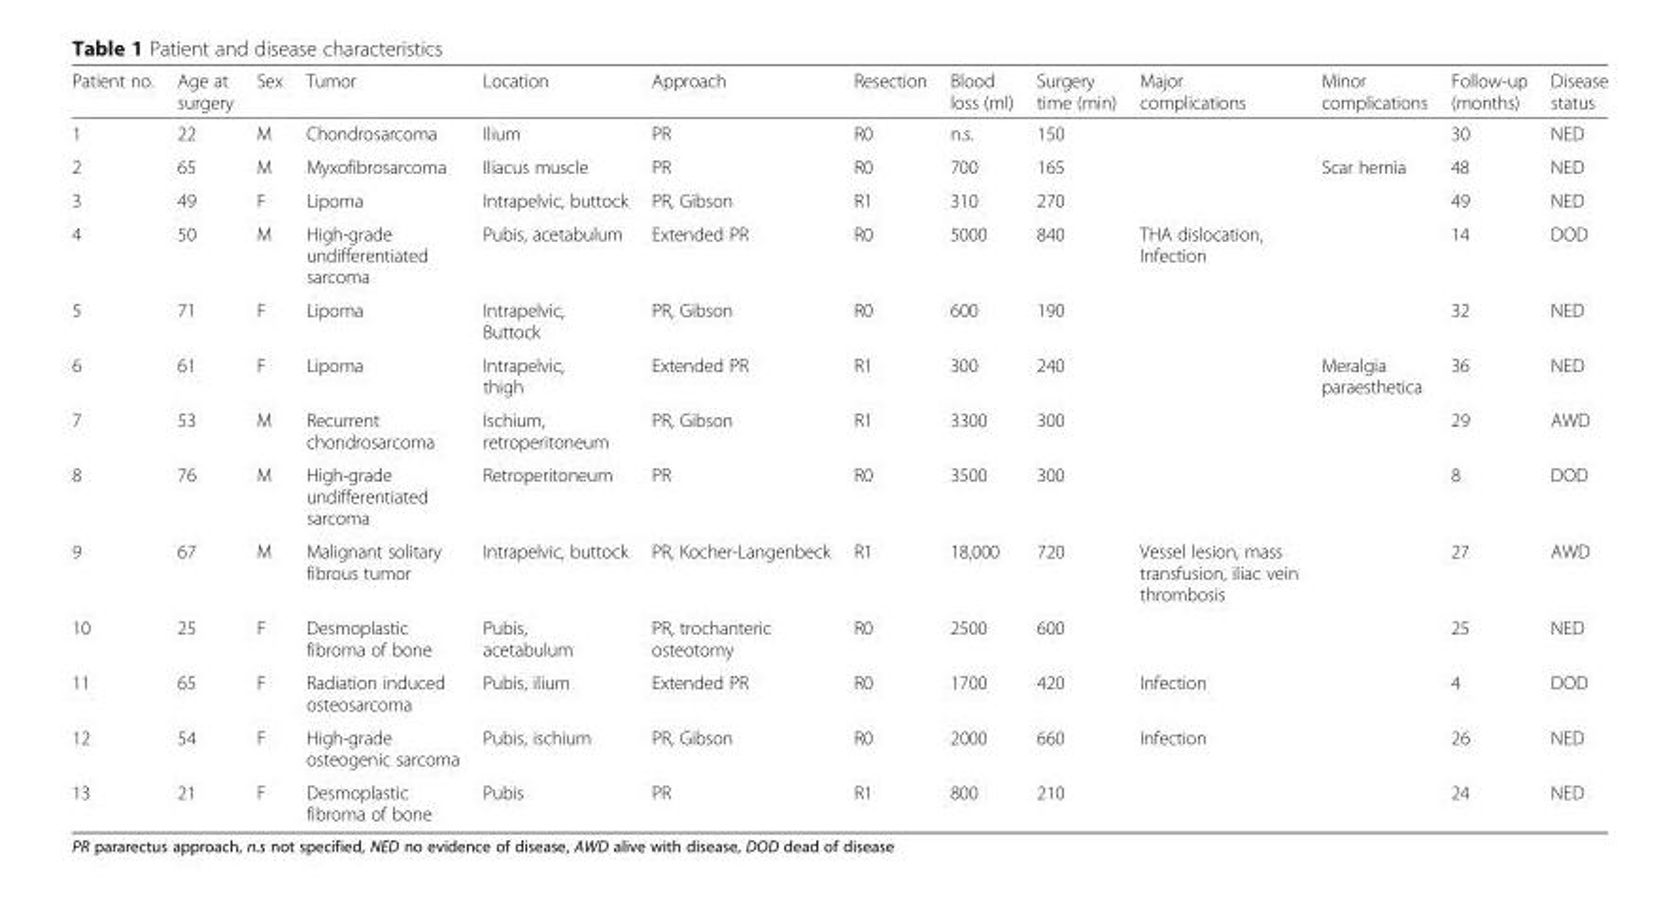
<table><thead><tr><td>Patient no.</td><td>Age at surgery</td><td>Sex</td><td>Tumor</td><td>Location</td><td>Approach</td><td>Resection</td><td>Blood loss (ml)</td><td>Surgery time (min)</td><td>Major complications</td><td>Minor complications</td><td>Follow-up (months)</td><td>Disease status</td></tr></thead><tbody><tr><td>1</td><td>22</td><td>M</td><td>Chondrosarcoma</td><td>Ilium</td><td>PR</td><td>R0</td><td>n.s.</td><td>150</td><td></td><td></td><td>30</td><td>NED</td></tr><tr><td>2</td><td>65</td><td>M</td><td>Myxofibrosarcoma</td><td>Iliacus muscle</td><td>PR</td><td>R0</td><td>700</td><td>165</td><td></td><td>Scar hernia</td><td>48</td><td>NED</td></tr><tr><td>3</td><td>49</td><td>F</td><td>Lipoma</td><td>Intrapelvic, buttock</td><td>PR, Gibson</td><td>R1</td><td>310</td><td>270</td><td></td><td></td><td>49</td><td>NED</td></tr><tr><td>4</td><td>50</td><td>M</td><td>High-grade undifferentiated sarcoma</td><td>Pubis, acetabulum</td><td>Extended PR</td><td>R0</td><td>5000</td><td>840</td><td>THA dislocation, Infection</td><td></td><td>14</td><td>DOD</td></tr><tr><td>5</td><td>71</td><td>F</td><td>Lipoma</td><td>Intrapelvic, Buttock</td><td>PR, Gibson</td><td>R0</td><td>600</td><td>190</td><td></td><td></td><td>32</td><td>NED</td></tr><tr><td>6</td><td>61</td><td>F</td><td>Lipoma</td><td>Intrapelvic, thigh</td><td>Extended PR</td><td>R1</td><td>300</td><td>240</td><td></td><td>Meralgia paraesthetica</td><td>36</td><td>NED</td></tr><tr><td>7</td><td>53</td><td>M</td><td>Recurrent chondrosarcoma</td><td>Ischium, retroperitoneum</td><td>PR, Gibson</td><td>R1</td><td>3300</td><td>300</td><td></td><td></td><td>29</td><td>AWD</td></tr><tr><td>8</td><td>76</td><td>M</td><td>High-grade undifferentiated sarcoma</td><td>Retroperitoneum</td><td>PR</td><td>R0</td><td>3500</td><td>300</td><td></td><td></td><td>8</td><td>DOD</td></tr><tr><td>9</td><td>67</td><td>M</td><td>Malignant solitary fibrous tumor</td><td>Intrapelvic, buttock</td><td>PR, Kocher-Langenbeck</td><td>R1</td><td>18,000</td><td>720</td><td>Vessel lesion, mass transfusion, iliac vein thrombosis</td><td></td><td>27</td><td>AWD</td></tr><tr><td>10</td><td>25</td><td>F</td><td>Desmoplastic fibroma of bone</td><td>Pubis, acetabulum</td><td>PR, trochanteric osteotomy</td><td>R0</td><td>2500</td><td>600</td><td></td><td></td><td>25</td><td>NED</td></tr><tr><td>11</td><td>65</td><td>F</td><td>Radiation induced osteosarcoma</td><td>Pubis, ilium</td><td>Extended PR</td><td>R0</td><td>1700</td><td>420</td><td>Infection</td><td></td><td>4</td><td>DOD</td></tr><tr><td>12</td><td>54</td><td>F</td><td>High-grade osteogenic sarcoma</td><td>Pubis, ischium</td><td>PR, Gibson</td><td>R0</td><td>2000</td><td>660</td><td>Infection</td><td></td><td>26</td><td>NED</td></tr><tr><td>13</td><td>21</td><td>F</td><td>Desmoplastic fibroma of bone</td><td>Pubis</td><td>PR</td><td>R1</td><td>800</td><td>210</td><td></td><td></td><td>24</td><td>NED</td></tr></tbody></table>